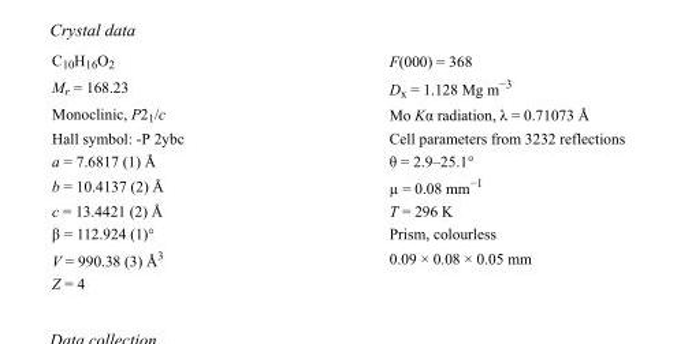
<table><tbody><tr><td>C<sub>10</sub>H<sub>16</sub>O<sub>2</sub></td><td>F(000) = 368</td></tr><tr><td>M<sub>r</sub> = 168.23</td><td>D<sub>x</sub> = 1.128 Mg m<sup>−3</sup></td></tr><tr><td>Monoclinic, P2<sub>1</sub>/c</td><td>Mo Kα radiation, λ = 0.71073 Å</td></tr><tr><td>Hall symbol: -P 2ybc</td><td>Cell parameters from 3232 reflections</td></tr><tr><td>a = 7.6817 (1) Å</td><td>θ = 2.9–25.1°</td></tr><tr><td>b = 10.4137 (2) Å</td><td>µ = 0.08 mm<sup>−1</sup></td></tr><tr><td>c = 13.4421 (2) Å</td><td>T = 296 K</td></tr><tr><td>β = 112.924 (1)°</td><td>Prism, colourless</td></tr><tr><td>V = 990.38 (3) Å<sup>3</sup></td><td>0.09 × 0.08 × 0.05 mm</td></tr><tr><td>Z = 4</td><td></td></tr></tbody></table>